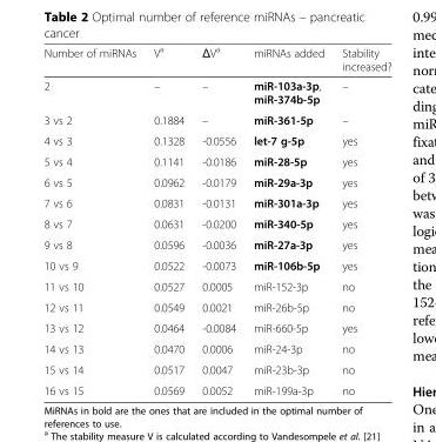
<table><thead><tr><td>Number of miRNAs</td><td>V<sup>a</sup></td><td>ΔV<sup>a</sup></td><td>miRNAs added</td><td>Stability increased?</td></tr></thead><tbody><tr><td>2</td><td>–</td><td>–</td><td>miR-103a-3p, miR-374b-5p</td><td>–</td></tr><tr><td>3 vs 2</td><td>0.1884</td><td>–</td><td>miR-361-5p</td><td>–</td></tr><tr><td>4 vs 3</td><td>0.1328</td><td>-0.0556</td><td>let-7 g-5p</td><td>yes</td></tr><tr><td>5 vs 4</td><td>0.1141</td><td>-0.0186</td><td>miR-28-5p</td><td>yes</td></tr><tr><td>6 vs 5</td><td>0.0962</td><td>-0.0179</td><td>miR-29a-3p</td><td>yes</td></tr><tr><td>7 vs 6</td><td>0.0831</td><td>-0.0131</td><td>miR-301a-3p</td><td>yes</td></tr><tr><td>8 vs 7</td><td>0.0631</td><td>-0.0200</td><td>miR-340-5p</td><td>yes</td></tr><tr><td>9 vs 8</td><td>0.0596</td><td>-0.0036</td><td>miR-27a-3p</td><td>yes</td></tr><tr><td>10 vs 9</td><td>0.0522</td><td>-0.0073</td><td>miR-106b-5p</td><td>yes</td></tr><tr><td>11 vs 10</td><td>0.0527</td><td>0.0005</td><td>miR-152-3p</td><td>no</td></tr><tr><td>12 vs 11</td><td>0.0549</td><td>0.0021</td><td>miR-26b-5p</td><td>no</td></tr><tr><td>13 vs 12</td><td>0.0464</td><td>-0.0084</td><td>miR-660-5p</td><td>yes</td></tr><tr><td>14 vs 13</td><td>0.0470</td><td>0.0006</td><td>miR-24-3p</td><td>no</td></tr><tr><td>15 vs 14</td><td>0.0517</td><td>0.0047</td><td>miR-23b-3p</td><td>no</td></tr><tr><td>16 vs 15</td><td>0.0569</td><td>0.0052</td><td>miR-199a-3p</td><td>no</td></tr></tbody></table>